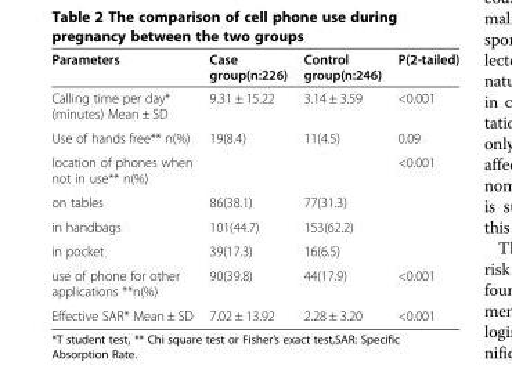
<table><thead><tr><td>Parameters</td><td>Case group(n:226)</td><td>Control group(n:246)</td><td>P(2-tailed)</td></tr></thead><tbody><tr><td>Calling time per day* (minutes) Mean ± SD</td><td>9.31 ± 15.22</td><td>3.14 ± 3.59</td><td>&lt;0.001</td></tr><tr><td>Use of hands free** n(%)</td><td>19(8.4)</td><td>11(4.5)</td><td>0.09</td></tr><tr><td>location of phones when not in use** n(%)</td><td></td><td></td><td>&lt;0.001</td></tr><tr><td>on tables</td><td>86(38.1)</td><td>77(31.3)</td><td></td></tr><tr><td>in handbags</td><td>101(44.7)</td><td>153(62.2)</td><td></td></tr><tr><td>in pocket</td><td>39(17.3)</td><td>16(6.5)</td><td></td></tr><tr><td>use of phone for other applications **n(%)</td><td>90(39.8)</td><td>44(17.9)</td><td>&lt;0.001</td></tr><tr><td>Effective SAR* Mean ± SD</td><td>7.02 ± 13.92</td><td>2.28 ± 3.20</td><td>&lt;0.001</td></tr></tbody></table>